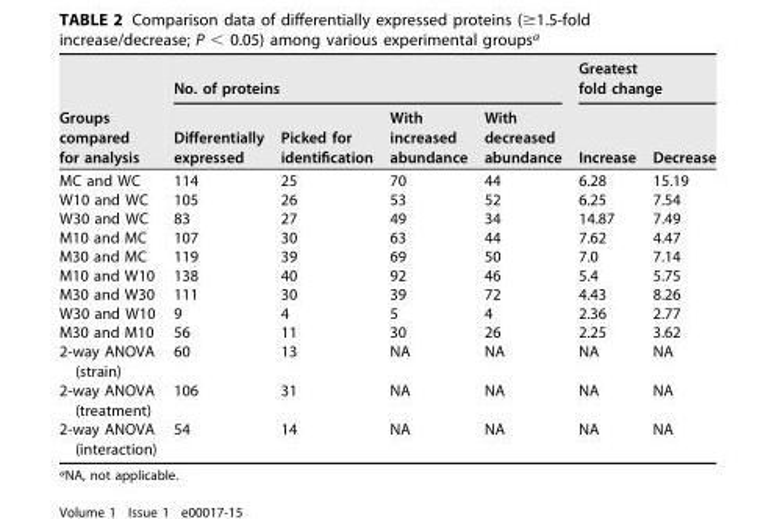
<table><thead><tr><td rowspan="2">Groups compared for analysis</td><td colspan="4">No. of proteins</td><td colspan="2">Greatest fold change</td></tr><tr><td>Differentially expressed</td><td>Picked for identification</td><td>With increased abundance</td><td>With decreased abundance</td><td>Increase</td><td>Decrease</td></tr></thead><tbody><tr><td>MC and WC</td><td>114</td><td>25</td><td>70</td><td>44</td><td>6.28</td><td>15.19</td></tr><tr><td>W10 and WC</td><td>105</td><td>26</td><td>53</td><td>52</td><td>6.25</td><td>7.54</td></tr><tr><td>W30 and WC</td><td>83</td><td>27</td><td>49</td><td>34</td><td>14.87</td><td>7.49</td></tr><tr><td>M10 and MC</td><td>107</td><td>30</td><td>63</td><td>44</td><td>7.62</td><td>4.47</td></tr><tr><td>M30 and MC</td><td>119</td><td>39</td><td>69</td><td>50</td><td>7.0</td><td>7.14</td></tr><tr><td>M10 and W10</td><td>138</td><td>40</td><td>92</td><td>46</td><td>5.4</td><td>5.75</td></tr><tr><td>M30 and W30</td><td>111</td><td>30</td><td>39</td><td>72</td><td>4.43</td><td>8.26</td></tr><tr><td>W30 and W10</td><td>9</td><td>4</td><td>5</td><td>4</td><td>2.36</td><td>2.77</td></tr><tr><td>M30 and M10</td><td>56</td><td>11</td><td>30</td><td>26</td><td>2.25</td><td>3.62</td></tr><tr><td>2-way ANOVA (strain)</td><td>60</td><td>13</td><td>NA</td><td>NA</td><td>NA</td><td>NA</td></tr><tr><td>2-way ANOVA (treatment)</td><td>106</td><td>31</td><td>NA</td><td>NA</td><td>NA</td><td>NA</td></tr><tr><td>2-way ANOVA (interaction)</td><td>54</td><td>14</td><td>NA</td><td>NA</td><td>NA</td><td>NA</td></tr></tbody></table>